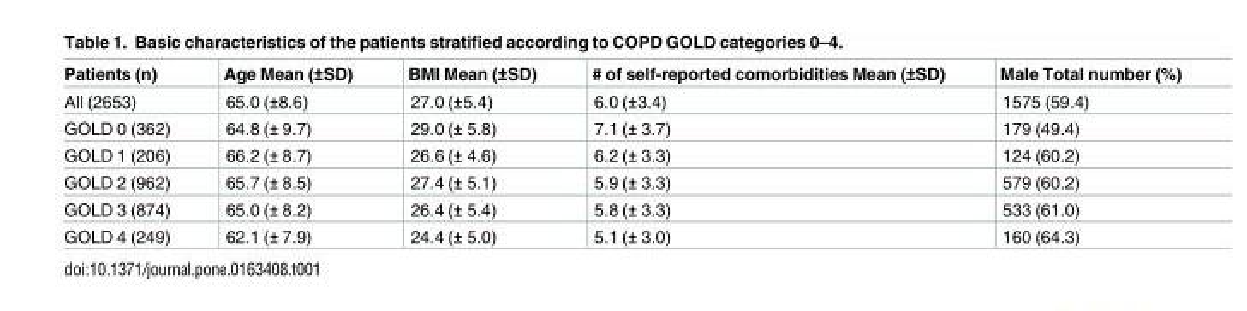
<table><thead><tr><td>Patients (n)</td><td>Age Mean (±SD)</td><td>BMI Mean (±SD)</td><td># of self-reported comorbidities Mean (±SD)</td><td>Male Total number (%)</td></tr></thead><tbody><tr><td>All (2653)</td><td>65.0 (±8.6)</td><td>27.0 (±5.4)</td><td>6.0 (±3.4)</td><td>1575 (59.4)</td></tr><tr><td>GOLD 0 (362)</td><td>64.8 (± 9.7)</td><td>29.0 (± 5.8)</td><td>7.1 (± 3.7)</td><td>179 (49.4)</td></tr><tr><td>GOLD 1 (206)</td><td>66.2 (± 8.7)</td><td>26.6 (± 4.6)</td><td>6.2 (± 3.3)</td><td>124 (60.2)</td></tr><tr><td>GOLD 2 (962)</td><td>65.7 (± 8.5)</td><td>27.4 (± 5.1)</td><td>5.9 (± 3.3)</td><td>579 (60.2)</td></tr><tr><td>GOLD 3 (874)</td><td>65.0 (± 8.2)</td><td>26.4 (± 5.4)</td><td>5.8 (± 3.3)</td><td>533 (61.0)</td></tr><tr><td>GOLD 4 (249)</td><td>62.1 (± 7.9)</td><td>24.4 (± 5.0)</td><td>5.1 (± 3.0)</td><td>160 (64.3)</td></tr></tbody></table>